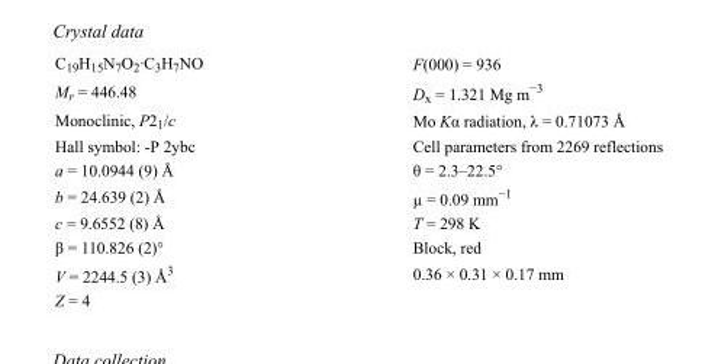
<table><tbody><tr><td>C<sub>19</sub>H<sub>15</sub>N<sub>7</sub>O<sub>2</sub>·C<sub>3</sub>H<sub>7</sub>NO</td><td>F(000) = 936</td></tr><tr><td>M<sub>r</sub> = 446.48</td><td>D<sub>x</sub> = 1.321 Mg m<sup>−3</sup></td></tr><tr><td>Monoclinic, P2<sub>1</sub>/c</td><td>Mo Kα radiation, λ = 0.71073 Å</td></tr><tr><td>Hall symbol: -P 2ybc</td><td>Cell parameters from 2269 reflections</td></tr><tr><td>a = 10.0944 (9) Å</td><td>θ = 2.3–22.5°</td></tr><tr><td>b = 24.639 (2) Å</td><td>µ = 0.09 mm<sup>−1</sup></td></tr><tr><td>c = 9.6552 (8) Å</td><td>T = 298 K</td></tr><tr><td>β = 110.826 (2)°</td><td>Block, red</td></tr><tr><td>V = 2244.5 (3) Å<sup>3</sup></td><td>0.36 × 0.31 × 0.17 mm</td></tr><tr><td>Z = 4</td><td></td></tr></tbody></table>